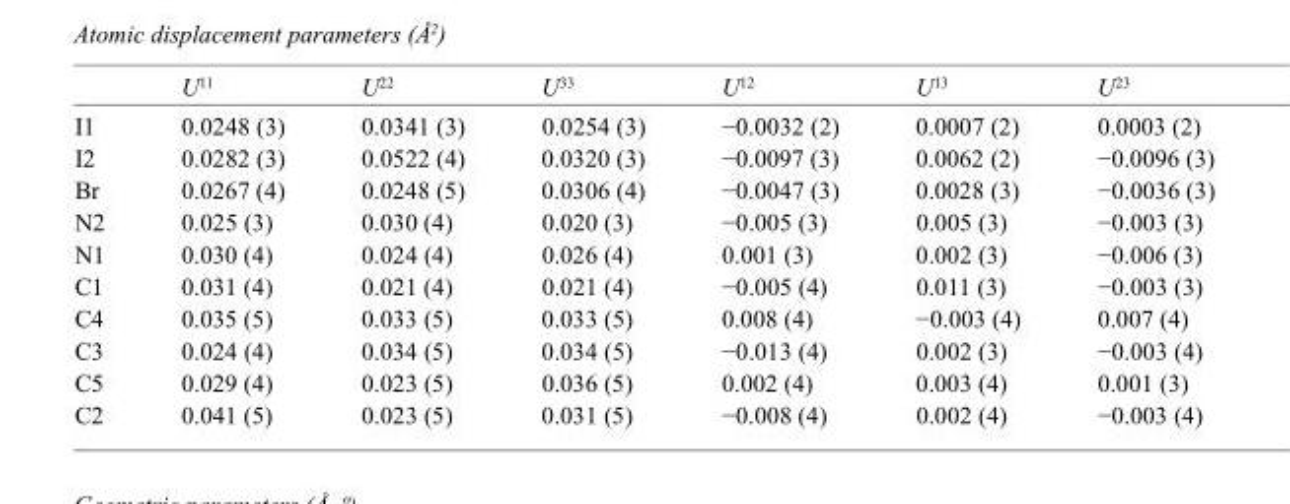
<table><thead><tr><td></td><td>U<sup>11</sup></td><td>U<sup>22</sup></td><td>U<sup>33</sup></td><td>U<sup>12</sup></td><td>U<sup>13</sup></td><td>U<sup>23</sup></td></tr></thead><tbody><tr><td>I1</td><td>0.0248 (3)</td><td>0.0341 (3)</td><td>0.0254 (3)</td><td>−0.0032 (2)</td><td>0.0007 (2)</td><td>0.0003 (2)</td></tr><tr><td>I2</td><td>0.0282 (3)</td><td>0.0522 (4)</td><td>0.0320 (3)</td><td>−0.0097 (3)</td><td>0.0062 (2)</td><td>−0.0096 (3)</td></tr><tr><td>Br</td><td>0.0267 (4)</td><td>0.0248 (5)</td><td>0.0306 (4)</td><td>−0.0047 (3)</td><td>0.0028 (3)</td><td>−0.0036 (3)</td></tr><tr><td>N2</td><td>0.025 (3)</td><td>0.030 (4)</td><td>0.020 (3)</td><td>−0.005 (3)</td><td>0.005 (3)</td><td>−0.003 (3)</td></tr><tr><td>N1</td><td>0.030 (4)</td><td>0.024 (4)</td><td>0.026 (4)</td><td>0.001 (3)</td><td>0.002 (3)</td><td>−0.006 (3)</td></tr><tr><td>C1</td><td>0.031 (4)</td><td>0.021 (4)</td><td>0.021 (4)</td><td>−0.005 (4)</td><td>0.011 (3)</td><td>−0.003 (3)</td></tr><tr><td>C4</td><td>0.035 (5)</td><td>0.033 (5)</td><td>0.033 (5)</td><td>0.008 (4)</td><td>−0.003 (4)</td><td>0.007 (4)</td></tr><tr><td>C3</td><td>0.024 (4)</td><td>0.034 (5)</td><td>0.034 (5)</td><td>−0.013 (4)</td><td>0.002 (3)</td><td>−0.003 (4)</td></tr><tr><td>C5</td><td>0.029 (4)</td><td>0.023 (5)</td><td>0.036 (5)</td><td>0.002 (4)</td><td>0.003 (4)</td><td>0.001 (3)</td></tr><tr><td>C2</td><td>0.041 (5)</td><td>0.023 (5)</td><td>0.031 (5)</td><td>−0.008 (4)</td><td>0.002 (4)</td><td>−0.003 (4)</td></tr></tbody></table>